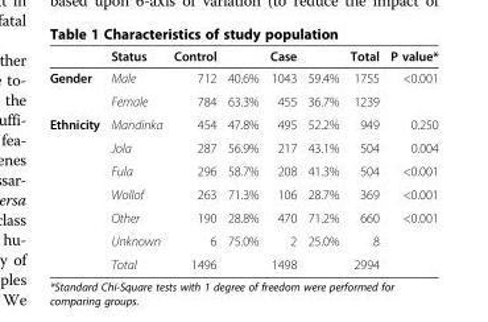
<table><thead><tr><td></td><td>Status</td><td>Control</td><td></td><td>Case</td><td></td><td>Total</td><td>P value*</td></tr></thead><tbody><tr><td rowspan="2">Gender</td><td>Male</td><td>712</td><td>40.6%</td><td>1043</td><td>59.4%</td><td>1755</td><td>&lt;0.001</td></tr><tr><td>Female</td><td>784</td><td>63.3%</td><td>455</td><td>36.7%</td><td>1239</td><td></td></tr><tr><td rowspan="7">Ethnicity</td><td>Mandinka</td><td>454</td><td>47.8%</td><td>495</td><td>52.2%</td><td>949</td><td>0.250</td></tr><tr><td>Jola</td><td>287</td><td>56.9%</td><td>217</td><td>43.1%</td><td>504</td><td>0.004</td></tr><tr><td>Fula</td><td>296</td><td>58.7%</td><td>208</td><td>41.3%</td><td>504</td><td>&lt;0.001</td></tr><tr><td>Wollof</td><td>263</td><td>71.3%</td><td>106</td><td>28.7%</td><td>369</td><td>&lt;0.001</td></tr><tr><td>Other</td><td>190</td><td>28.8%</td><td>470</td><td>71.2%</td><td>660</td><td>&lt;0.001</td></tr><tr><td>Unknown</td><td>6</td><td>75.0%</td><td>2</td><td>25.0%</td><td>8</td><td></td></tr><tr><td>Total</td><td>1496</td><td></td><td>1498</td><td></td><td>2994</td><td></td></tr></tbody></table>